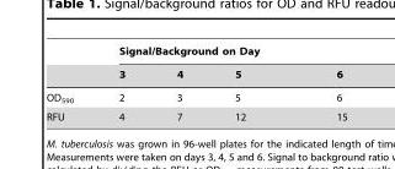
<table><thead><tr><td rowspan="2"></td><td colspan="4">Signal/Background on Day</td></tr><tr><td>3</td><td>4</td><td>5</td><td>6</td></tr></thead><tbody><tr><td>OD<sub>590</sub></td><td>2</td><td>3</td><td>5</td><td>6</td></tr><tr><td>RFU</td><td>4</td><td>7</td><td>12</td><td>15</td></tr></tbody></table>